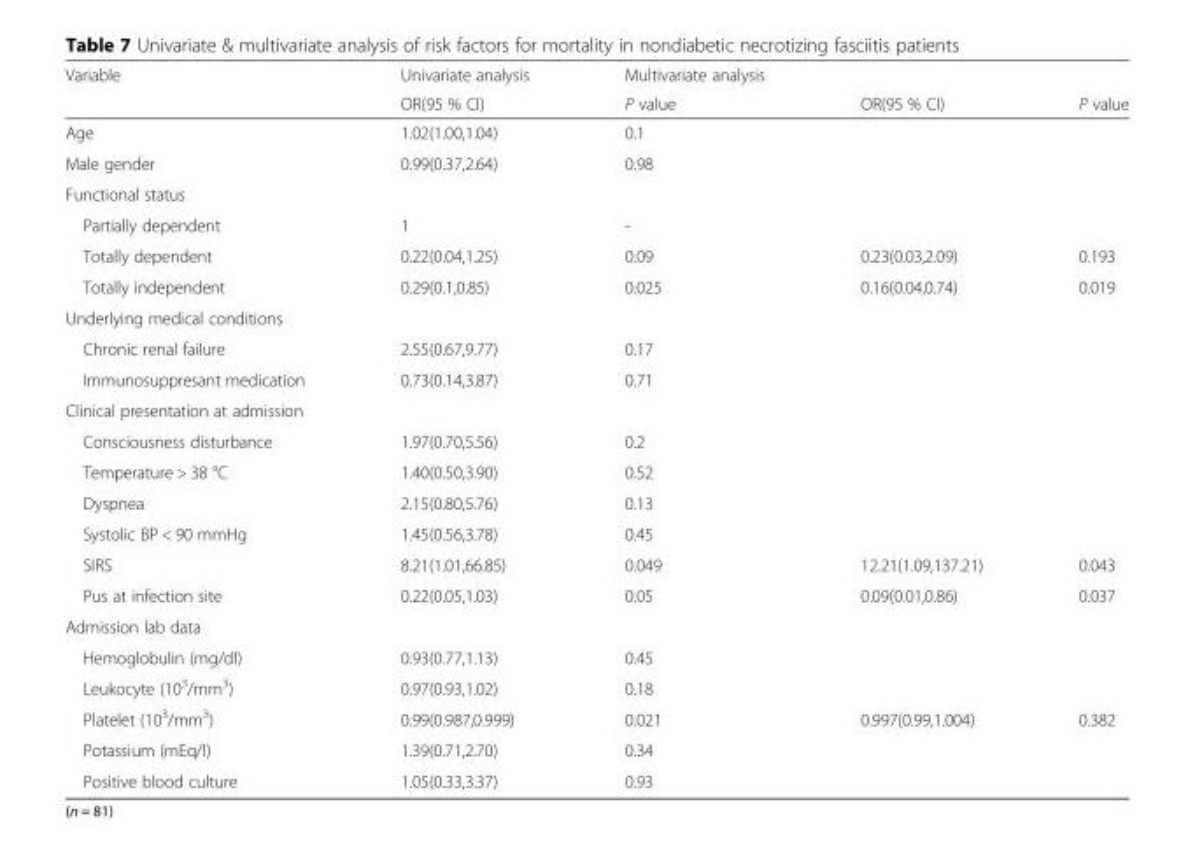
<table><thead><tr><td rowspan="2">Variable</td><td rowspan="2">Univariate analysis OR(95 % CI)</td><td rowspan="2">Multivariate analysis P value</td><td rowspan="2">OR(95 % CI)</td><td rowspan="2">P value</td></tr><tr></tr></thead><tbody><tr><td>Age</td><td>1.02(1.00,1.04)</td><td>0.1</td><td></td><td></td></tr><tr><td>Male gender</td><td>0.99(0.37,2.64)</td><td>0.98</td><td></td><td></td></tr><tr><td colspan="5">Functional status</td></tr><tr><td>Partially dependent</td><td>1</td><td>-</td><td></td><td></td></tr><tr><td>Totally dependent</td><td>0.22(0.04,1.25)</td><td>0.09</td><td>0.23(0.03,2.09)</td><td>0.193</td></tr><tr><td>Totally independent</td><td>0.29(0.1,0.85)</td><td>0.025</td><td>0.16(0.04,0.74)</td><td>0.019</td></tr><tr><td colspan="5">Underlying medical conditions</td></tr><tr><td>Chronic renal failure</td><td>2.55(0.67,9.77)</td><td>0.17</td><td></td><td></td></tr><tr><td>Immunosuppresant medication</td><td>0.73(0.14,3.87)</td><td>0.71</td><td></td><td></td></tr><tr><td colspan="5">Clinical presentation at admission</td></tr><tr><td>Consciousness disturbance</td><td>1.97(0.70,5.56)</td><td>0.2</td><td></td><td></td></tr><tr><td>Temperature &gt; 38 °C</td><td>1.40(0.50,3.90)</td><td>0.52</td><td></td><td></td></tr><tr><td>Dyspnea</td><td>2.15(0.80,5.76)</td><td>0.13</td><td></td><td></td></tr><tr><td>Systolic BP &lt; 90 mmHg</td><td>1.45(0.56,3.78)</td><td>0.45</td><td></td><td></td></tr><tr><td>SIRS</td><td>8.21(1.01,66.85)</td><td>0.049</td><td>12.21(1.09,137.21)</td><td>0.043</td></tr><tr><td>Pus at infection site</td><td>0.22(0.05,1.03)</td><td>0.05</td><td>0.09(0.01,0.86)</td><td>0.037</td></tr><tr><td colspan="5">Admission lab data</td></tr><tr><td>Hemoglobulin (mg/dl)</td><td>0.93(0.77,1.13)</td><td>0.45</td><td></td><td></td></tr><tr><td>Leukocyte (10<sup>3</sup>/mm<sup>3</sup>)</td><td>0.97(0.93,1.02)</td><td>0.18</td><td></td><td></td></tr><tr><td>Platelet (10<sup>3</sup>/mm<sup>3</sup>)</td><td>0.99(0.987,0.999)</td><td>0.021</td><td>0.997(0.99,1.004)</td><td>0.382</td></tr><tr><td>Potassium (mEq/l)</td><td>1.39(0.71,2.70)</td><td>0.34</td><td></td><td></td></tr><tr><td>Positive blood culture</td><td>1.05(0.33,3.37)</td><td>0.93</td><td></td><td></td></tr></tbody></table>